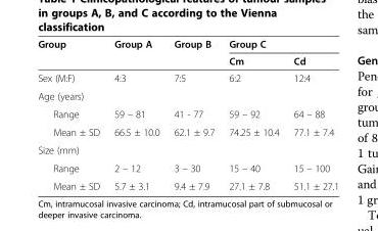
<table><thead><tr><td rowspan="2">Group</td><td rowspan="2">Group A</td><td rowspan="2">Group B</td><td colspan="2">Group C</td></tr><tr><td>Cm</td><td>Cd</td></tr></thead><tbody><tr><td>Sex (M:F)</td><td>4:3</td><td>7:5</td><td>6:2</td><td>12:4</td></tr><tr><td colspan="5">Age (years)</td></tr><tr><td>Range</td><td>59 – 81</td><td>41 - 77</td><td>59 – 92</td><td>64 – 88</td></tr><tr><td>Mean ± SD</td><td>66.5 ± 10.0</td><td>62.1 ± 9.7</td><td>74.25 ± 10.4</td><td>77.1 ± 7.4</td></tr><tr><td colspan="5">Size (mm)</td></tr><tr><td>Range</td><td>2 – 12</td><td>3 – 30</td><td>15 – 40</td><td>15 – 100</td></tr><tr><td>Mean ± SD</td><td>5.7 ± 3.1</td><td>9.4 ± 7.9</td><td>27.1 ± 7.8</td><td>51.1 ± 27.1</td></tr></tbody></table>